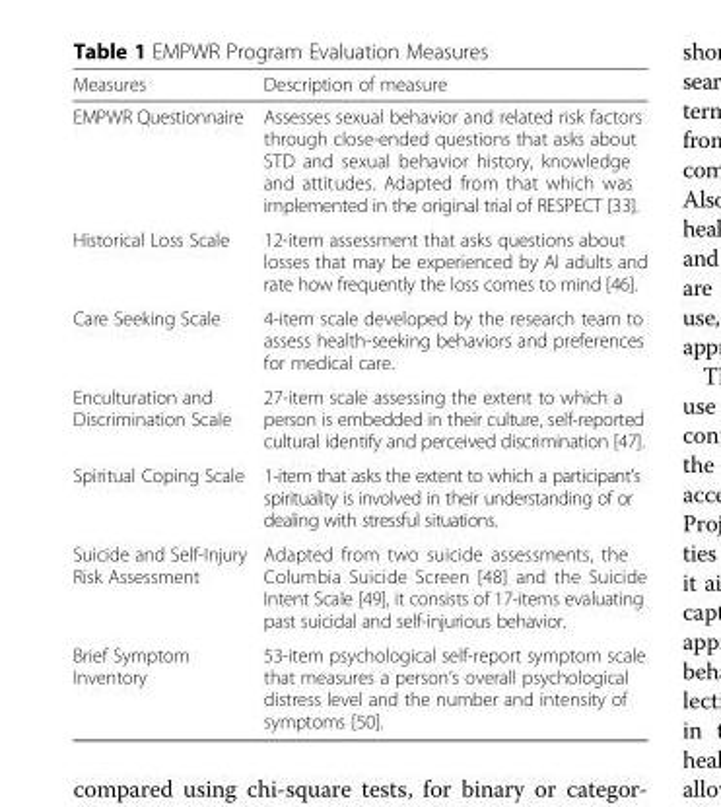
<table><thead><tr><td>Measures</td><td>Description of measure</td></tr></thead><tbody><tr><td>EMPWR Questionnaire</td><td>Assesses sexual behavior and related risk factors through close-ended questions that asks about STD and sexual behavior history, knowledge and attitudes. Adapted from that which was implemented in the original trial of RESPECT [33].</td></tr><tr><td>Historical Loss Scale</td><td>12-item assessment that asks questions about losses that may be experienced by AI adults and rate how frequently the loss comes to mind [46].</td></tr><tr><td>Care Seeking Scale</td><td>4-item scale developed by the research team to assess health-seeking behaviors and preferences for medical care.</td></tr><tr><td>Enculturation and Discrimination Scale</td><td>27-item scale assessing the extent to which a person is embedded in their culture, self-reported cultural identify and perceived discrimination [47].</td></tr><tr><td>Spiritual Coping Scale</td><td>1-item that asks the extent to which a participant’s spirituality is involved in their understanding of or dealing with stressful situations.</td></tr><tr><td>Suicide and Self-Injury Risk Assessment</td><td>Adapted from two suicide assessments, the Columbia Suicide Screen [48] and the Suicide Intent Scale [49], it consists of 17-items evaluating past suicidal and self-injurious behavior.</td></tr><tr><td>Brief Symptom Inventory</td><td>53-item psychological self-report symptom scale that measures a person’s overall psychological distress level and the number and intensity of symptoms [50].</td></tr></tbody></table>